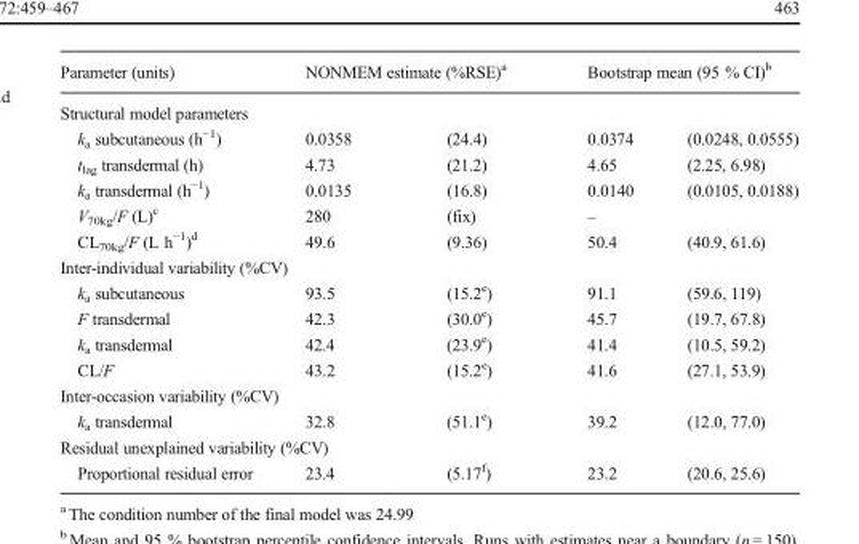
<table><thead><tr><td>Parameter (units)</td><td colspan="2">NONMEM estimate (%RSE)<sup>a</sup></td><td colspan="2">Bootstrap mean (95 % CI)<sup>b</sup></td></tr><tr><td colspan="5">Structural model parameters</td></tr><tr><td>k<sub>a</sub> subcutaneous (h<sup>−1</sup>)</td><td>0.0358</td><td>(24.4)</td><td>0.0374</td><td>(0.0248, 0.0555)</td></tr></thead><tbody><tr><td>t<sub>lag</sub> transdermal (h)</td><td>4.73</td><td>(21.2)</td><td>4.65</td><td>(2.25, 6.98)</td></tr><tr><td>k<sub>a</sub> transdermal (h<sup>−1</sup>)</td><td>0.0135</td><td>(16.8)</td><td>0.0140</td><td>(0.0105, 0.0188)</td></tr><tr><td>V<sub>70kg</sub>/F (L)<sup>c</sup></td><td>280</td><td>(fix)</td><td>–</td><td></td></tr><tr><td>CL<sub>70kg</sub>/F (L h<sup>−1</sup>)<sup>d</sup></td><td>49.6</td><td>(9.36)</td><td>50.4</td><td>(40.9, 61.6)</td></tr><tr><td colspan="5">Inter-individual variability (%CV)</td></tr><tr><td>k<sub>a</sub> subcutaneous</td><td>93.5</td><td>(15.2<sup>e</sup>)</td><td>91.1</td><td>(59.6, 119)</td></tr><tr><td>F transdermal</td><td>42.3</td><td>(30.0<sup>e</sup>)</td><td>45.7</td><td>(19.7, 67.8)</td></tr><tr><td>k<sub>a</sub> transdermal</td><td>42.4</td><td>(23.9<sup>e</sup>)</td><td>41.4</td><td>(10.5, 59.2)</td></tr><tr><td>CL/F</td><td>43.2</td><td>(15.2<sup>e</sup>)</td><td>41.6</td><td>(27.1, 53.9)</td></tr><tr><td colspan="5">Inter-occasion variability (%CV)</td></tr><tr><td>k<sub>a</sub> transdermal</td><td>32.8</td><td>(51.1<sup>e</sup>)</td><td>39.2</td><td>(12.0, 77.0)</td></tr><tr><td colspan="5">Residual unexplained variability (%CV)</td></tr><tr><td>Proportional residual error</td><td>23.4</td><td>(5.17<sup>f</sup>)</td><td>23.2</td><td>(20.6, 25.6)</td></tr></tbody></table>